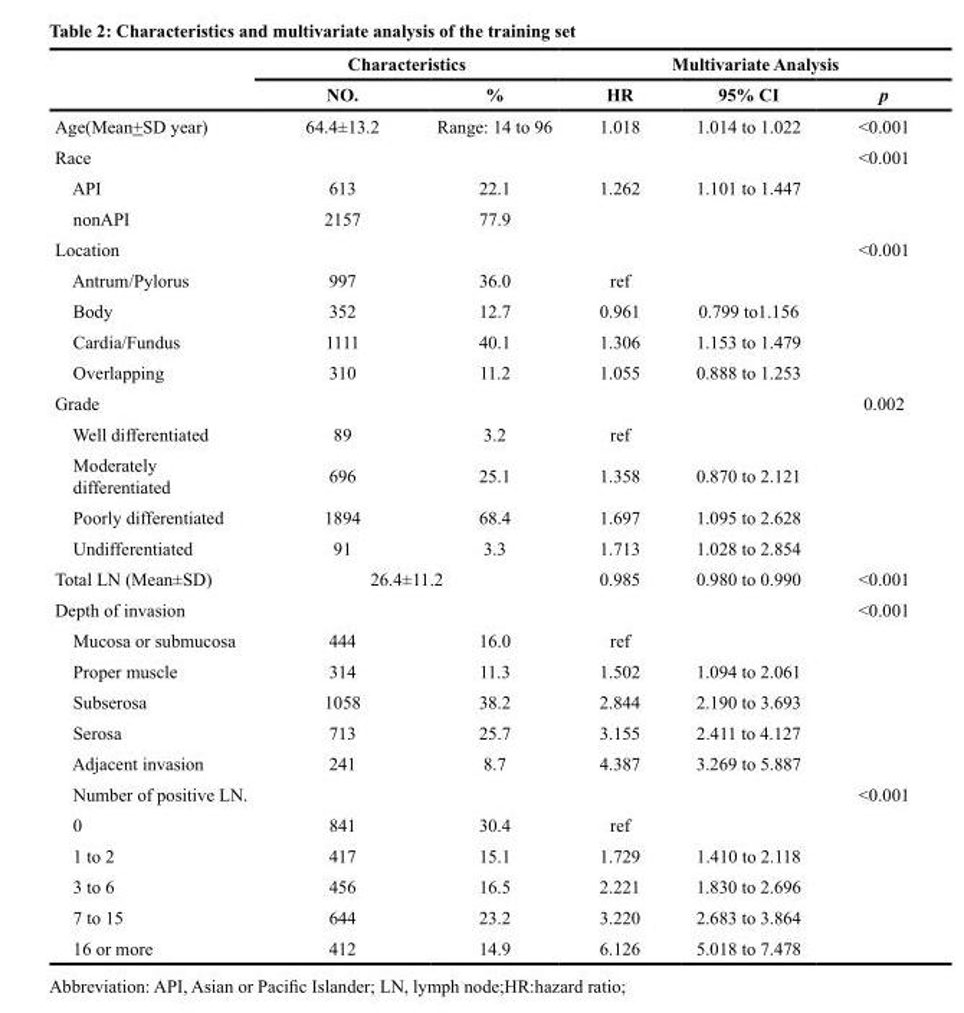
<table><thead><tr><td rowspan="2"></td><td colspan="2">Characteristics</td><td colspan="3">Multivariate Analysis</td></tr><tr><td>NO.</td><td>%</td><td>HR</td><td>95% CI</td><td>p</td></tr></thead><tbody><tr><td>Age(Mean+SD year)</td><td>64.4±13.2</td><td>Range: 14 to 96</td><td>1.018</td><td>1.014 to 1.022</td><td>&lt;0.001</td></tr><tr><td>Race</td><td></td><td></td><td></td><td></td><td>&lt;0.001</td></tr><tr><td>API</td><td>613</td><td>22.1</td><td>1.262</td><td>1.101 to 1.447</td><td></td></tr><tr><td>nonAPI</td><td>2157</td><td>77.9</td><td></td><td></td><td></td></tr><tr><td>Location</td><td></td><td></td><td></td><td></td><td>&lt;0.001</td></tr><tr><td>Antrum/Pylorus</td><td>997</td><td>36.0</td><td>ref</td><td></td><td></td></tr><tr><td>Body</td><td>352</td><td>12.7</td><td>0.961</td><td>0.799 to1.156</td><td></td></tr><tr><td>Cardia/Fundus</td><td>1111</td><td>40.1</td><td>1.306</td><td>1.153 to 1.479</td><td></td></tr><tr><td>Overlapping</td><td>310</td><td>11.2</td><td>1.055</td><td>0.888 to 1.253</td><td></td></tr><tr><td>Grade</td><td></td><td></td><td></td><td></td><td>0.002</td></tr><tr><td>Well differentiated</td><td>89</td><td>3.2</td><td>ref</td><td></td><td></td></tr><tr><td>Moderately differentiated</td><td>696</td><td>25.1</td><td>1.358</td><td>0.870 to 2.121</td><td></td></tr><tr><td>Poorly differentiated</td><td>1894</td><td>68.4</td><td>1.697</td><td>1.095 to 2.628</td><td></td></tr><tr><td>Undifferentiated</td><td>91</td><td>3.3</td><td>1.713</td><td>1.028 to 2.854</td><td></td></tr><tr><td>Total LN (Mean±SD)</td><td colspan="2">26.4±11.2</td><td>0.985</td><td>0.980 to 0.990</td><td>&lt;0.001</td></tr><tr><td>Depth of invasion</td><td></td><td></td><td></td><td></td><td>&lt;0.001</td></tr><tr><td>Mucosa or submucosa</td><td>444</td><td>16.0</td><td>ref</td><td></td><td></td></tr><tr><td>Proper muscle</td><td>314</td><td>11.3</td><td>1.502</td><td>1.094 to 2.061</td><td></td></tr><tr><td>Subserosa</td><td>1058</td><td>38.2</td><td>2.844</td><td>2.190 to 3.693</td><td></td></tr><tr><td>Serosa</td><td>713</td><td>25.7</td><td>3.155</td><td>2.411 to 4.127</td><td></td></tr><tr><td>Adjacent invasion</td><td>241</td><td>8.7</td><td>4.387</td><td>3.269 to 5.887</td><td></td></tr><tr><td>Number of positive LN.</td><td></td><td></td><td></td><td></td><td>&lt;0.001</td></tr><tr><td>0</td><td>841</td><td>30.4</td><td>ref</td><td></td><td></td></tr><tr><td>1 to 2</td><td>417</td><td>15.1</td><td>1.729</td><td>1.410 to 2.118</td><td></td></tr><tr><td>3 to 6</td><td>456</td><td>16.5</td><td>2.221</td><td>1.830 to 2.696</td><td></td></tr><tr><td>7 to 15</td><td>644</td><td>23.2</td><td>3.220</td><td>2.683 to 3.864</td><td></td></tr><tr><td>16 or more</td><td>412</td><td>14.9</td><td>6.126</td><td>5.018 to 7.478</td><td></td></tr></tbody></table>